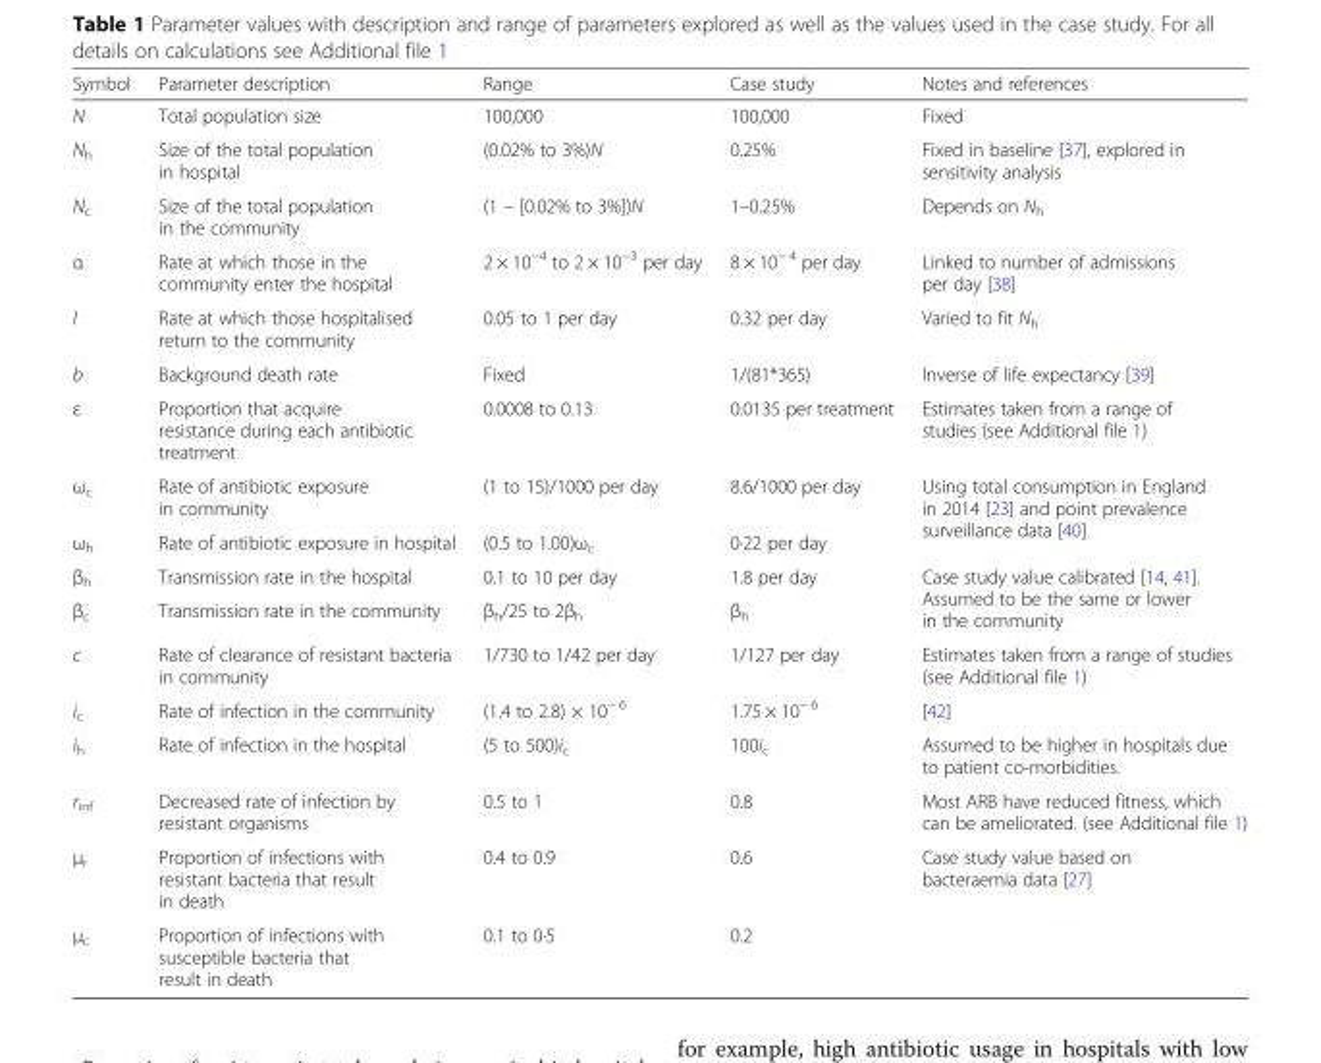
<table><thead><tr><td>Symbol</td><td>Parameter description</td><td>Range</td><td>Case study</td><td>Notes and references</td></tr></thead><tbody><tr><td>N</td><td>Total population size</td><td>100,000</td><td>100,000</td><td>Fixed</td></tr><tr><td>N<sub>h</sub></td><td>Size of the total population in hospital</td><td>(0.02% to 3%)N</td><td>0.25%</td><td>Fixed in baseline [37], explored in sensitivity analysis</td></tr><tr><td>N<sub>c</sub></td><td>Size of the total population in the community</td><td>(1 – [0.02% to 3%])N</td><td>1–0.25%</td><td>Depends on N<sub>h</sub></td></tr><tr><td>α</td><td>Rate at which those in the community enter the hospital</td><td>2 × 10<sup>−4</sup> to 2 × 10<sup>−3</sup> per day</td><td>8 × 10<sup>− 4</sup> per day</td><td>Linked to number of admissions per day [38]</td></tr><tr><td>l</td><td>Rate at which those hospitalised return to the community</td><td>0.05 to 1 per day</td><td>0.32 per day</td><td>Varied to fit N<sub>h</sub></td></tr><tr><td>b</td><td>Background death rate</td><td>Fixed</td><td>1/(81*365)</td><td>Inverse of life expectancy [39]</td></tr><tr><td>ε</td><td>Proportion that acquire resistance during each antibiotic treatment</td><td>0.0008 to 0.13</td><td>0.0135 per treatment</td><td>Estimates taken from a range of studies (see Additional file 1)</td></tr><tr><td>ω<sub>c</sub></td><td>Rate of antibiotic exposure in community</td><td>(1 to 15)/1000 per day</td><td>8.6/1000 per day</td><td rowspan="2">Using total consumption in England in 2014 [23] and point prevalence surveillance data [40]</td></tr><tr><td>ω<sub>h</sub></td><td>Rate of antibiotic exposure in hospital</td><td>(0.5 to 1.00)ω<sub>c</sub></td><td>0·22 per day</td></tr><tr><td>β<sub>h</sub></td><td>Transmission rate in the hospital</td><td>0.1 to 10 per day</td><td>1.8 per day</td><td rowspan="2">Case study value calibrated [14, 41]. Assumed to be the same or lower in the community</td></tr><tr><td>β<sub>c</sub></td><td>Transmission rate in the community</td><td>β<sub>h</sub>/25 to 2β<sub>h</sub></td><td>β<sub>h</sub></td></tr><tr><td>c</td><td>Rate of clearance of resistant bacteria in community</td><td>1/730 to 1/42 per day</td><td>1/127 per day</td><td>Estimates taken from a range of studies (see Additional file 1)</td></tr><tr><td>i<sub>c</sub></td><td>Rate of infection in the community</td><td>(1.4 to 2.8) × 10<sup>− 6</sup></td><td>1.75 × 10<sup>− 6</sup></td><td>[42]</td></tr><tr><td>i<sub>h</sub></td><td>Rate of infection in the hospital</td><td>(5 to 500)i<sub>c</sub></td><td>100i<sub>c</sub></td><td>Assumed to be higher in hospitals due to patient co-morbidities.</td></tr><tr><td>r<sub>inf</sub></td><td>Decreased rate of infection by resistant organisms</td><td>0.5 to 1</td><td>0.8</td><td>Most ARB have reduced fitness, which can be ameliorated. (see Additional file 1)</td></tr><tr><td>μ<sub>r</sub></td><td>Proportion of infections with resistant bacteria that result in death</td><td>0.4 to 0.9</td><td>0.6</td><td rowspan="2">Case study value based on bacteraemia data [27]</td></tr><tr><td>μ<sub>c</sub></td><td>Proportion of infections with susceptible bacteria that result in death</td><td>0.1 to 0·5</td><td>0.2</td></tr></tbody></table>